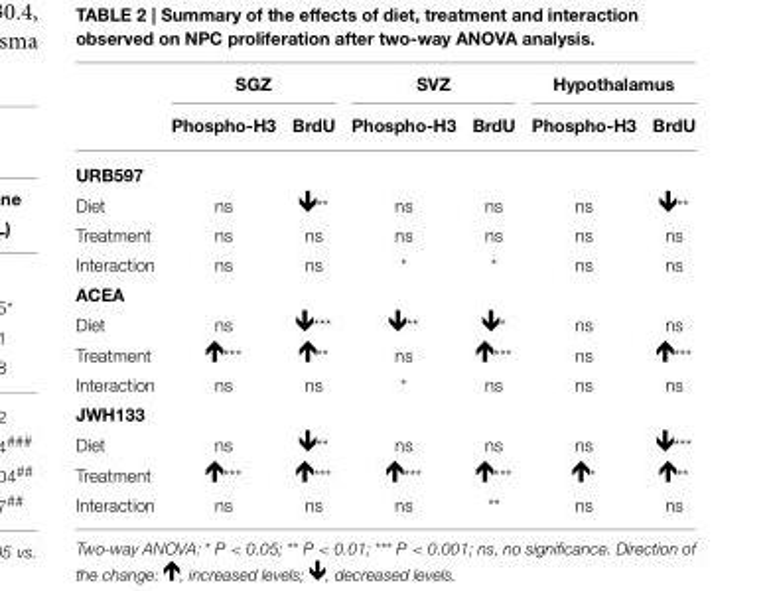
<table><thead><tr><td rowspan="2"></td><td colspan="2">SGZ</td><td colspan="2">SVZ</td><td colspan="2">Hypothalamus</td></tr><tr><td>Phospho-H3</td><td>BrdU</td><td>Phospho-H3</td><td>BrdU</td><td>Phospho-H3</td><td>BrdU</td></tr></thead><tbody><tr><td colspan="7">URB597</td></tr><tr><td>Diet</td><td>ns</td><td>**</td><td>ns</td><td>ns</td><td>ns</td><td>**</td></tr><tr><td>Treatment</td><td>ns</td><td>ns</td><td>ns</td><td>ns</td><td>ns</td><td>ns</td></tr><tr><td>Interaction</td><td>ns</td><td>ns</td><td>*</td><td>*</td><td>ns</td><td>ns</td></tr><tr><td colspan="7">ACEA</td></tr><tr><td>Diet</td><td>ns</td><td>***</td><td>**</td><td>*</td><td>ns</td><td>ns</td></tr><tr><td>Treatment</td><td>***</td><td>**</td><td>ns</td><td>***</td><td>ns</td><td>***</td></tr><tr><td>Interaction</td><td>ns</td><td>ns</td><td>*</td><td>ns</td><td>ns</td><td>ns</td></tr><tr><td colspan="7">JWH133</td></tr><tr><td>Diet</td><td>ns</td><td>**</td><td>ns</td><td>ns</td><td>ns</td><td>***</td></tr><tr><td>Treatment</td><td>***</td><td>***</td><td>***</td><td>***</td><td>*</td><td>**</td></tr><tr><td>Interaction</td><td>ns</td><td>ns</td><td>ns</td><td>**</td><td>ns</td><td>ns</td></tr></tbody></table>